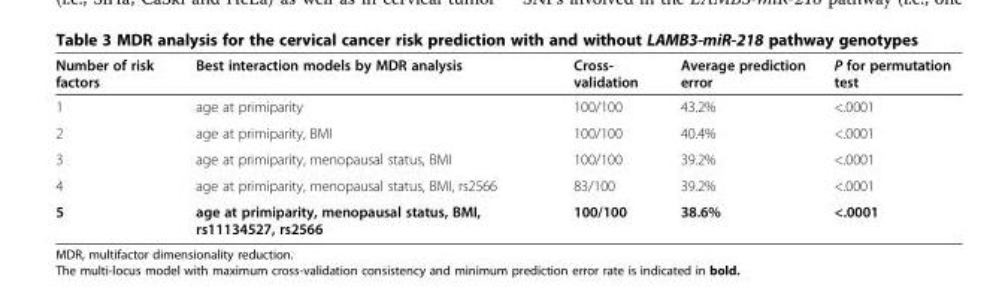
<table><thead><tr><td>Number of risk factors</td><td>Best interaction models by MDR analysis</td><td>Cross- validation</td><td>Average prediction error</td><td>P for permutation test</td></tr></thead><tbody><tr><td>1</td><td>age at primiparity</td><td>100/100</td><td>43.2%</td><td>&lt;.0001</td></tr><tr><td>2</td><td>age at primiparity, BMI</td><td>100/100</td><td>40.4%</td><td>&lt;.0001</td></tr><tr><td>3</td><td>age at primiparity, menopausal status, BMI</td><td>100/100</td><td>39.2%</td><td>&lt;.0001</td></tr><tr><td>4</td><td>age at primiparity, menopausal status, BMI, rs2566</td><td>83/100</td><td>39.2%</td><td>&lt;.0001</td></tr><tr><td>5</td><td>age at primiparity, menopausal status, BMI, rs11134527, rs2566</td><td>100/100</td><td>38.6%</td><td>&lt;.0001</td></tr></tbody></table>